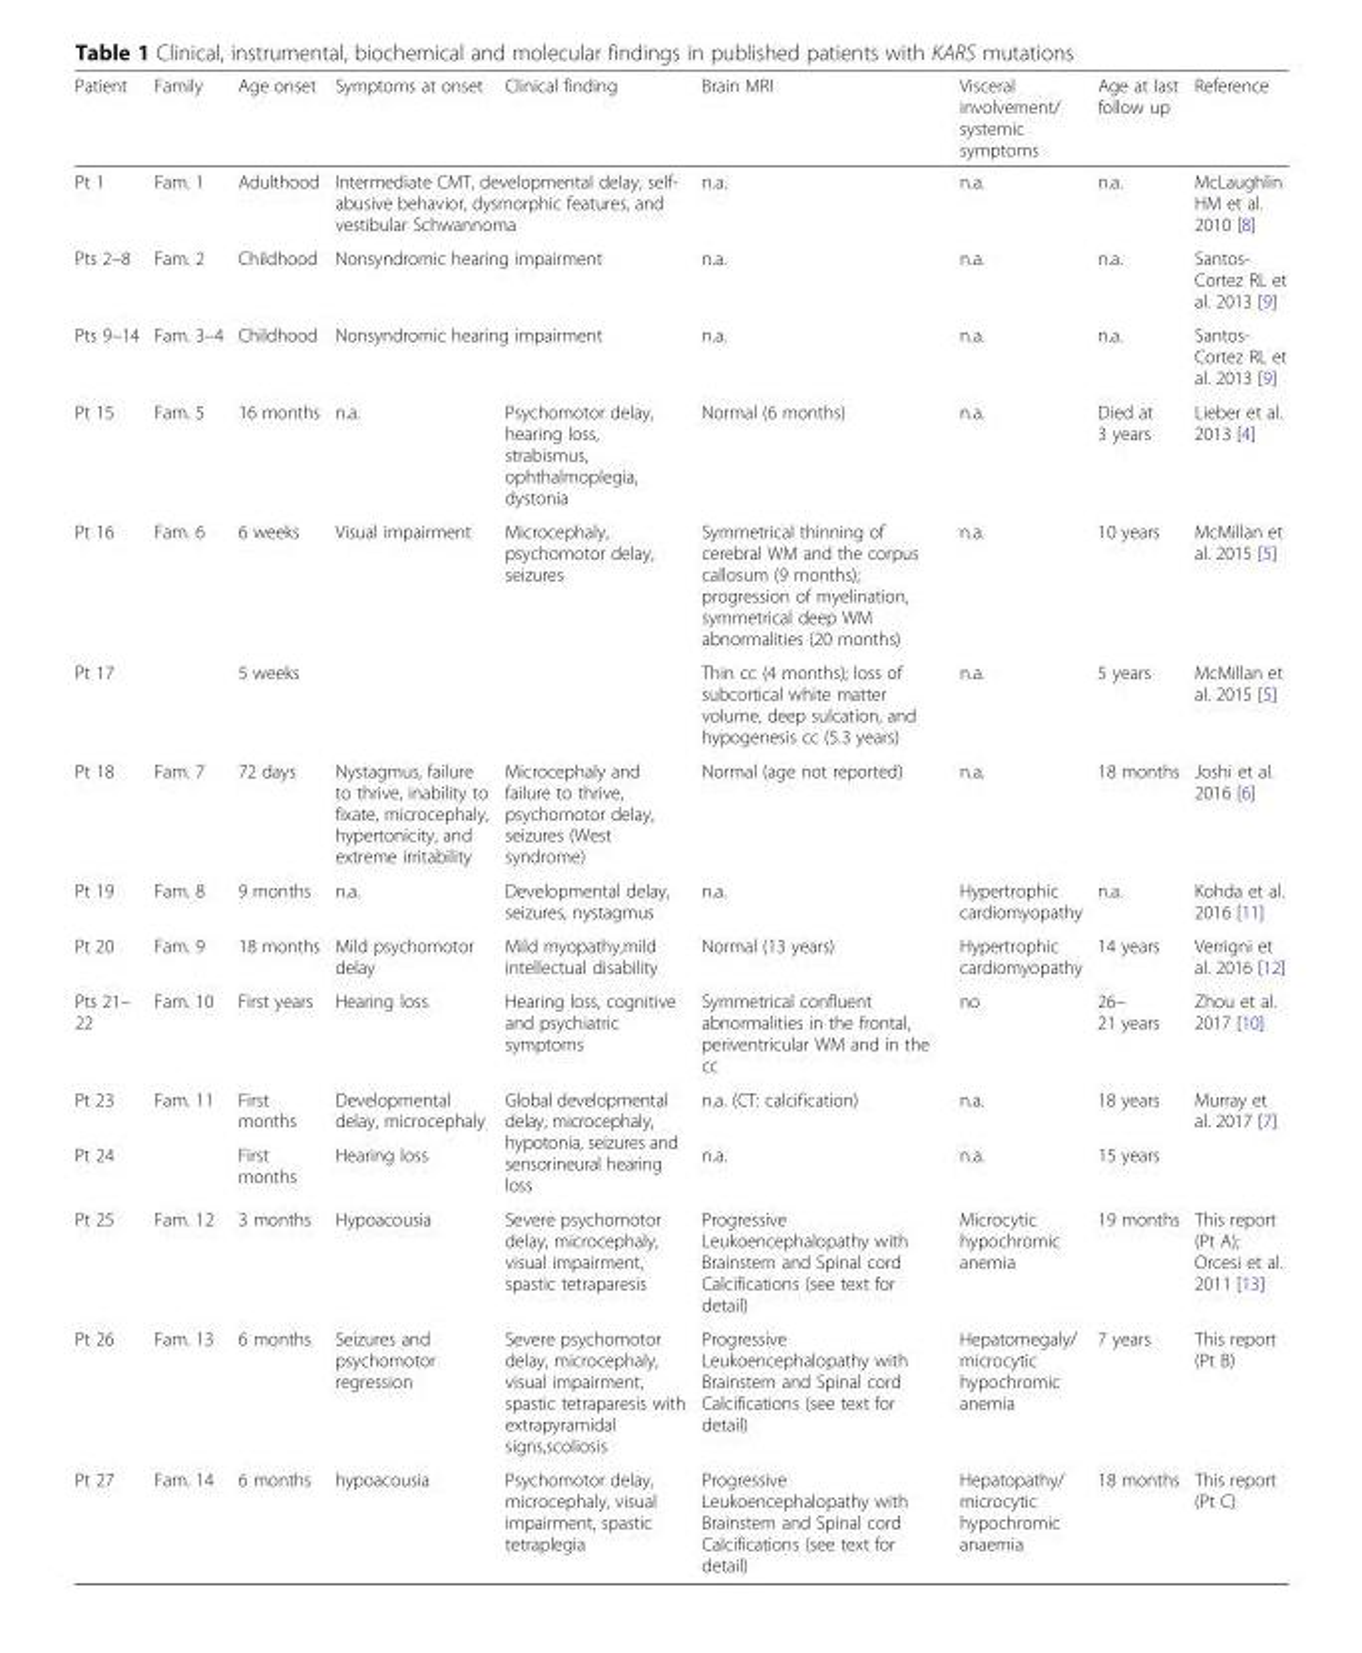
<table><thead><tr><td>Patient</td><td>Family</td><td>Age onset</td><td>Symptoms at onset</td><td>Clinical finding</td><td>Brain MRI</td><td>Visceral involvement/ systemic symptoms</td><td>Age at last follow up</td><td>Reference</td></tr></thead><tbody><tr><td>Pt 1</td><td>Fam. 1</td><td>Adulthood</td><td colspan="2">Intermediate CMT, developmental delay, self- abusive behavior, dysmorphic features, and vestibular Schwannoma</td><td>n.a.</td><td>n.a.</td><td>n.a.</td><td>McLaughlin HM et al. 2010 [8]</td></tr><tr><td>Pts 2–8</td><td>Fam. 2</td><td>Childhood</td><td colspan="2">Nonsyndromic hearing impairment</td><td>n.a.</td><td>n.a.</td><td>n.a.</td><td>Santos- Cortez RL et al. 2013 [9]</td></tr><tr><td>Pts 9–14</td><td>Fam. 3–4</td><td>Childhood</td><td colspan="2">Nonsyndromic hearing impairment</td><td>n.a.</td><td>n.a.</td><td>n.a.</td><td>Santos- Cortez RL et al. 2013 [9]</td></tr><tr><td>Pt 15</td><td>Fam. 5</td><td>16 months</td><td>n.a.</td><td>Psychomotor delay, hearing loss, strabismus, ophthalmoplegia, dystonia</td><td>Normal (6 months)</td><td>n.a.</td><td>Died at 3 years</td><td>Lieber et al. 2013 [4]</td></tr><tr><td>Pt 16</td><td rowspan="2">Fam. 6</td><td>6 weeks</td><td rowspan="2">Visual impairment</td><td rowspan="2">Microcephaly, psychomotor delay, seizures</td><td>Symmetrical thinning of cerebral WM and the corpus callosum (9 months); progression of myelination, symmetrical deep WM abnormalities (20 months)</td><td>n.a.</td><td>10 years</td><td>McMillan et al. 2015 [5]</td></tr><tr><td>Pt 17</td><td>5 weeks</td><td>Thin cc (4 months); loss of subcortical white matter volume, deep sulcation, and hypogenesis cc (5.3 years)</td><td>n.a.</td><td>5 years</td><td>McMillan et al. 2015 [5]</td></tr><tr><td>Pt 18</td><td>Fam. 7</td><td>72 days</td><td>Nystagmus, failure to thrive, inability to fixate, microcephaly, hypertonicity, and extreme irritability</td><td>Microcephaly and failure to thrive, psychomotor delay, seizures (West syndrome)</td><td>Normal (age not reported)</td><td>n.a.</td><td>18 months</td><td>Joshi et al. 2016 [6]</td></tr><tr><td>Pt 19</td><td>Fam. 8</td><td>9 months</td><td>n.a.</td><td>Developmental delay, seizures, nystagmus</td><td>n.a.</td><td>Hypertrophic cardiomyopathy</td><td>n.a.</td><td>Kohda et al. 2016 [11]</td></tr><tr><td>Pt 20</td><td>Fam. 9</td><td>18 months</td><td>Mild psychomotor delay</td><td>Mild myopathy,mild intellectual disability</td><td>Normal (13 years)</td><td>Hypertrophic cardiomyopathy</td><td>14 years</td><td>Verrigni et al. 2016 [12]</td></tr><tr><td>Pts 21– 22</td><td>Fam. 10</td><td>First years</td><td>Hearing loss</td><td>Hearing loss, cognitive and psychiatric symptoms</td><td>Symmetrical confluent abnormalities in the frontal, periventricular WM and in the cc</td><td>no</td><td>26– 21 years</td><td>Zhou et al. 2017 [10]</td></tr><tr><td>Pt 23</td><td rowspan="2">Fam. 11</td><td>First months</td><td>Developmental delay, microcephaly</td><td rowspan="2">Global developmental delay, microcephaly, hypotonia, seizures and sensorineural hearing loss</td><td>n.a. (CT: calcification)</td><td>n.a.</td><td>18 years</td><td rowspan="2">Murray et al. 2017 [7]</td></tr><tr><td>Pt 24</td><td>First months</td><td>Hearing loss</td><td>n.a.</td><td>n.a.</td><td>15 years</td></tr><tr><td>Pt 25</td><td>Fam. 12</td><td>3 months</td><td>Hypoacousia</td><td>Severe psychomotor delay, microcephaly, visual impairment, spastic tetraparesis</td><td>Progressive Leukoencephalopathy with Brainstem and Spinal cord Calcifications (see text for detail)</td><td>Microcytic hypochromic anemia</td><td>19 months</td><td>This report (Pt A); Orcesi et al. 2011 [13]</td></tr><tr><td>Pt 26</td><td>Fam. 13</td><td>6 months</td><td>Seizures and psychomotor regression</td><td>Severe psychomotor delay, microcephaly, visual impairment, spastic tetraparesis with extrapyramidal signs,scoliosis</td><td>Progressive Leukoencephalopathy with Brainstem and Spinal cord Calcifications (see text for detail)</td><td>Hepatomegaly/ microcytic hypochromic anemia</td><td>7 years</td><td>This report (Pt B)</td></tr><tr><td>Pt 27</td><td>Fam. 14</td><td>6 months</td><td>hypoacousia</td><td>Psychomotor delay, microcephaly, visual impairment, spastic tetraplegia</td><td>Progressive Leukoencephalopathy with Brainstem and Spinal cord Calcifications (see text for detail)</td><td>Hepatopathy/ microcytic hypochromic anaemia</td><td>18 months</td><td>This report (Pt C)</td></tr></tbody></table>